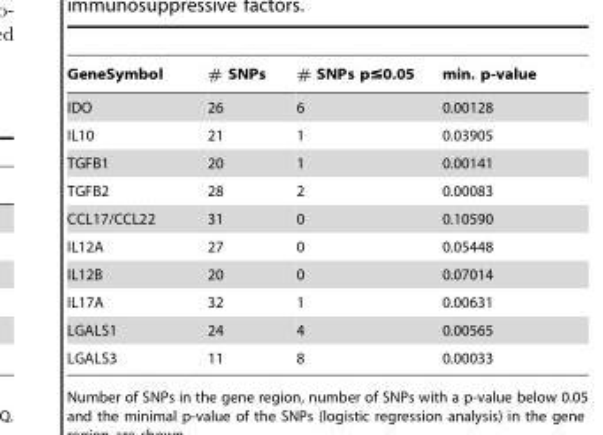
<table><thead><tr><td>GeneSymbol</td><td># SNPs</td><td># SNPs p≤0.05</td><td>min. p-value</td></tr></thead><tbody><tr><td>IDO</td><td>26</td><td>6</td><td>0.00128</td></tr><tr><td>IL10</td><td>21</td><td>1</td><td>0.03905</td></tr><tr><td>TGFB1</td><td>20</td><td>1</td><td>0.00141</td></tr><tr><td>TGFB2</td><td>28</td><td>2</td><td>0.00083</td></tr><tr><td>CCL17/CCL22</td><td>31</td><td>0</td><td>0.10590</td></tr><tr><td>IL12A</td><td>27</td><td>0</td><td>0.05448</td></tr><tr><td>IL12B</td><td>20</td><td>0</td><td>0.07014</td></tr><tr><td>IL17A</td><td>32</td><td>1</td><td>0.00631</td></tr><tr><td>LGALS1</td><td>24</td><td>4</td><td>0.00565</td></tr><tr><td>LGALS3</td><td>11</td><td>8</td><td>0.00033</td></tr></tbody></table>